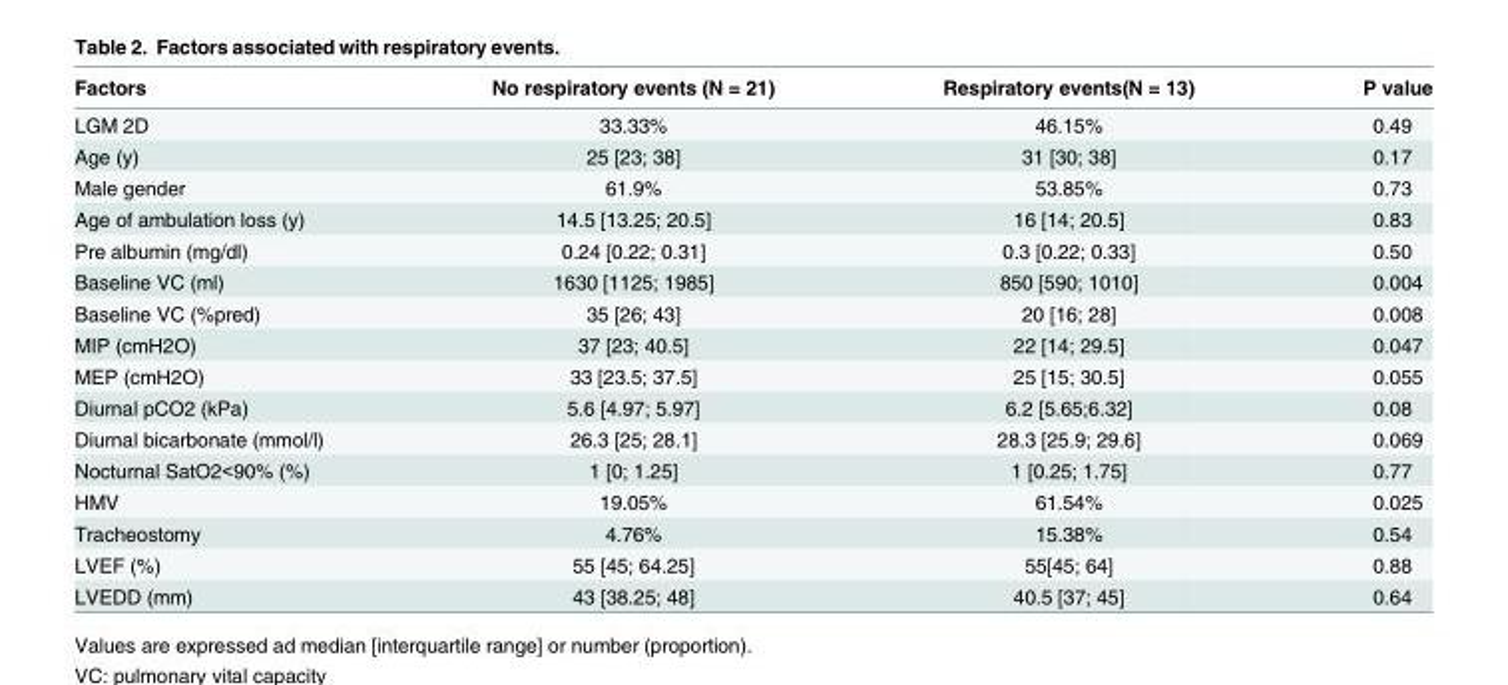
<table><thead><tr><td>Factors</td><td>No respiratory events (N = 21)</td><td>Respiratory events(N = 13)</td><td>P value</td></tr></thead><tbody><tr><td>LGM 2D</td><td>33.33%</td><td>46.15%</td><td>0.49</td></tr><tr><td>Age (y)</td><td>25 [23; 38]</td><td>31 [30; 38]</td><td>0.17</td></tr><tr><td>Male gender</td><td>61.9%</td><td>53.85%</td><td>0.73</td></tr><tr><td>Age of ambulation loss (y)</td><td>14.5 [13.25; 20.5]</td><td>16 [14; 20.5]</td><td>0.83</td></tr><tr><td>Pre albumin (mg/dl)</td><td>0.24 [0.22; 0.31]</td><td>0.3 [0.22; 0.33]</td><td>0.50</td></tr><tr><td>Baseline VC (ml)</td><td>1630 [1125; 1985]</td><td>850 [590; 1010]</td><td>0.004</td></tr><tr><td>Baseline VC (%pred)</td><td>35 [26; 43]</td><td>20 [16; 28]</td><td>0.008</td></tr><tr><td>MIP (cmH2O)</td><td>37 [23; 40.5]</td><td>22 [14; 29.5]</td><td>0.047</td></tr><tr><td>MEP (cmH2O)</td><td>33 [23.5; 37.5]</td><td>25 [15; 30.5]</td><td>0.055</td></tr><tr><td>Diurnal pCO2 (kPa)</td><td>5.6 [4.97; 5.97]</td><td>6.2 [5.65;6.32]</td><td>0.08</td></tr><tr><td>Diurnal bicarbonate (mmol/l)</td><td>26.3 [25; 28.1]</td><td>28.3 [25.9; 29.6]</td><td>0.069</td></tr><tr><td>Nocturnal SatO2&lt;90% (%)</td><td>1 [0; 1.25]</td><td>1 [0.25; 1.75]</td><td>0.77</td></tr><tr><td>HMV</td><td>19.05%</td><td>61.54%</td><td>0.025</td></tr><tr><td>Tracheostomy</td><td>4.76%</td><td>15.38%</td><td>0.54</td></tr><tr><td>LVEF (%)</td><td>55 [45; 64.25]</td><td>55[45; 64]</td><td>0.88</td></tr><tr><td>LVEDD (mm)</td><td>43 [38.25; 48]</td><td>40.5 [37; 45]</td><td>0.64</td></tr></tbody></table>